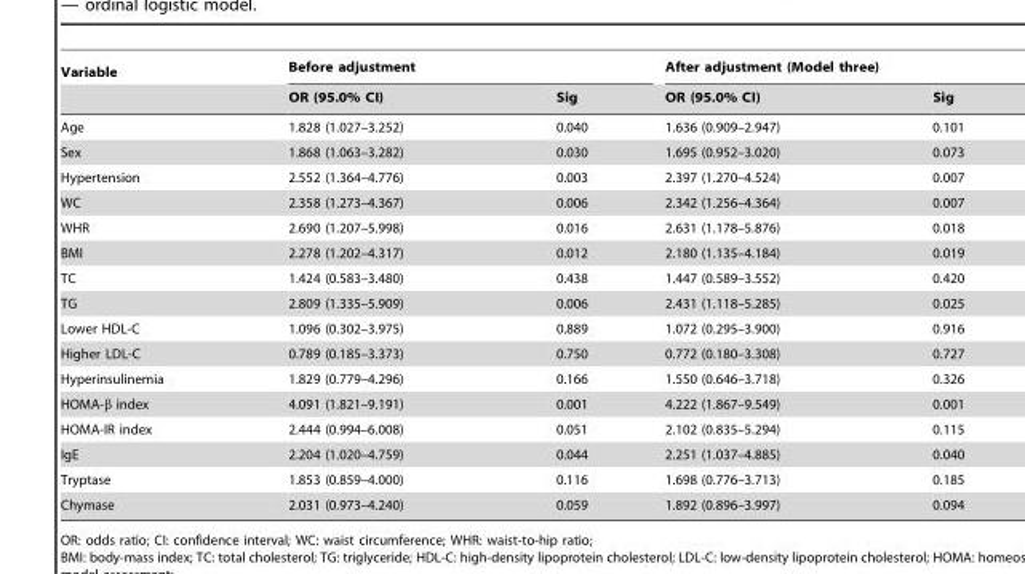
<table><thead><tr><td rowspan="2">Variable</td><td colspan="2">Before adjustment</td><td colspan="2">After adjustment (Model three)</td></tr><tr><td>OR (95.0% CI)</td><td>Sig</td><td>OR (95.0% CI)</td><td>Sig</td></tr></thead><tbody><tr><td>Age</td><td>1.828 (1.027–3.252)</td><td>0.040</td><td>1.636 (0.909–2.947)</td><td>0.101</td></tr><tr><td>Sex</td><td>1.868 (1.063–3.282)</td><td>0.030</td><td>1.695 (0.952–3.020)</td><td>0.073</td></tr><tr><td>Hypertension</td><td>2.552 (1.364–4.776)</td><td>0.003</td><td>2.397 (1.270–4.524)</td><td>0.007</td></tr><tr><td>WC</td><td>2.358 (1.273–4.367)</td><td>0.006</td><td>2.342 (1.256–4.364)</td><td>0.007</td></tr><tr><td>WHR</td><td>2.690 (1.207–5.998)</td><td>0.016</td><td>2.631 (1.178–5.876)</td><td>0.018</td></tr><tr><td>BMI</td><td>2.278 (1.202–4.317)</td><td>0.012</td><td>2.180 (1.135–4.184)</td><td>0.019</td></tr><tr><td>TC</td><td>1.424 (0.583–3.480)</td><td>0.438</td><td>1.447 (0.589–3.552)</td><td>0.420</td></tr><tr><td>TG</td><td>2.809 (1.335–5.909)</td><td>0.006</td><td>2.431 (1.118–5.285)</td><td>0.025</td></tr><tr><td>Lower HDL-C</td><td>1.096 (0.302–3.975)</td><td>0.889</td><td>1.072 (0.295–3.900)</td><td>0.916</td></tr><tr><td>Higher LDL-C</td><td>0.789 (0.185–3.373)</td><td>0.750</td><td>0.772 (0.180–3.308)</td><td>0.727</td></tr><tr><td>Hyperinsulinemia</td><td>1.829 (0.779–4.296)</td><td>0.166</td><td>1.550 (0.646–3.718)</td><td>0.326</td></tr><tr><td>HOMA-β index</td><td>4.091 (1.821–9.191)</td><td>0.001</td><td>4.222 (1.867–9.549)</td><td>0.001</td></tr><tr><td>HOMA-IR index</td><td>2.444 (0.994–6.008)</td><td>0.051</td><td>2.102 (0.835–5.294)</td><td>0.115</td></tr><tr><td>IgE</td><td>2.204 (1.020–4.759)</td><td>0.044</td><td>2.251 (1.037–4.885)</td><td>0.040</td></tr><tr><td>Tryptase</td><td>1.853 (0.859–4.000)</td><td>0.116</td><td>1.698 (0.776–3.713)</td><td>0.185</td></tr><tr><td>Chymase</td><td>2.031 (0.973–4.240)</td><td>0.059</td><td>1.892 (0.896–3.997)</td><td>0.094</td></tr></tbody></table>